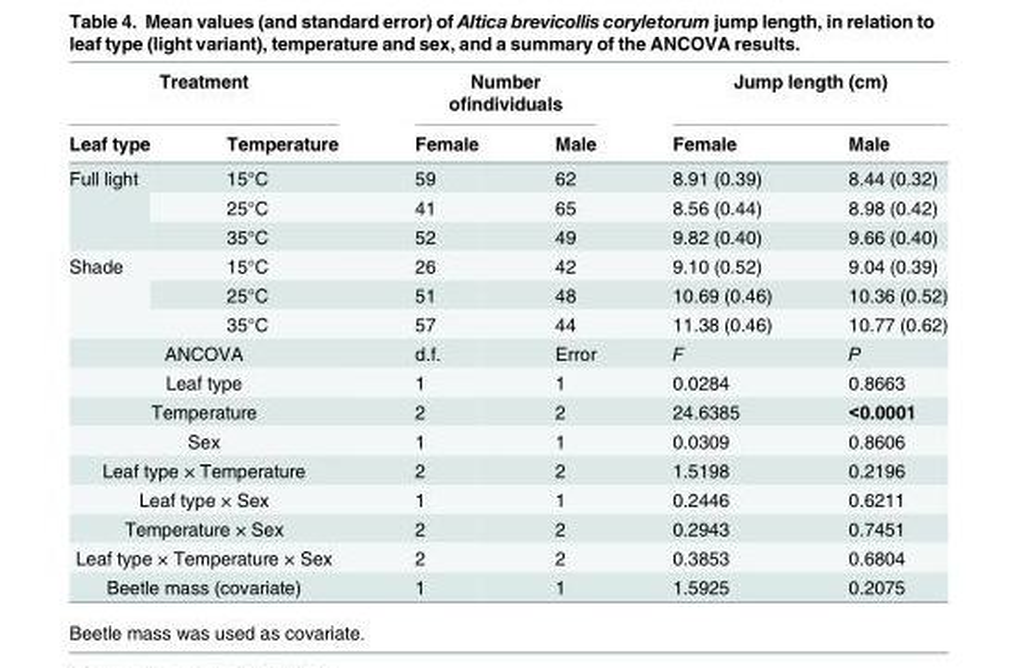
<table><thead><tr><td colspan="2">Treatment</td><td colspan="2">Number ofindividuals</td><td colspan="2">Jump length (cm)</td></tr><tr><td>Leaf type</td><td>Temperature</td><td>Female</td><td>Male</td><td>Female</td><td>Male</td></tr></thead><tbody><tr><td rowspan="3">Full light</td><td>15°C</td><td>59</td><td>62</td><td>8.91 (0.39)</td><td>8.44 (0.32)</td></tr><tr><td>25°C</td><td>41</td><td>65</td><td>8.56 (0.44)</td><td>8.98 (0.42)</td></tr><tr><td>35°C</td><td>52</td><td>49</td><td>9.82 (0.40)</td><td>9.66 (0.40)</td></tr><tr><td rowspan="3">Shade</td><td>15°C</td><td>26</td><td>42</td><td>9.10 (0.52)</td><td>9.04 (0.39)</td></tr><tr><td>25°C</td><td>51</td><td>48</td><td>10.69 (0.46)</td><td>10.36 (0.52)</td></tr><tr><td>35°C</td><td>57</td><td>44</td><td>11.38 (0.46)</td><td>10.77 (0.62)</td></tr><tr><td colspan="2">ANCOVA</td><td>d.f.</td><td>Error</td><td>F</td><td>P</td></tr><tr><td colspan="2">Leaf type</td><td>1</td><td>1</td><td>0.0284</td><td>0.8663</td></tr><tr><td colspan="2">Temperature</td><td>2</td><td>2</td><td>24.6385</td><td>&lt;0.0001</td></tr><tr><td colspan="2">Sex</td><td>1</td><td>1</td><td>0.0309</td><td>0.8606</td></tr><tr><td colspan="2">Leaf type × Temperature</td><td>2</td><td>2</td><td>1.5198</td><td>0.2196</td></tr><tr><td colspan="2">Leaf type × Sex</td><td>1</td><td>1</td><td>0.2446</td><td>0.6211</td></tr><tr><td colspan="2">Temperature × Sex</td><td>2</td><td>2</td><td>0.2943</td><td>0.7451</td></tr><tr><td colspan="2">Leaf type × Temperature × Sex</td><td>2</td><td>2</td><td>0.3853</td><td>0.6804</td></tr><tr><td colspan="2">Beetle mass (covariate)</td><td>1</td><td>1</td><td>1.5925</td><td>0.2075</td></tr></tbody></table>